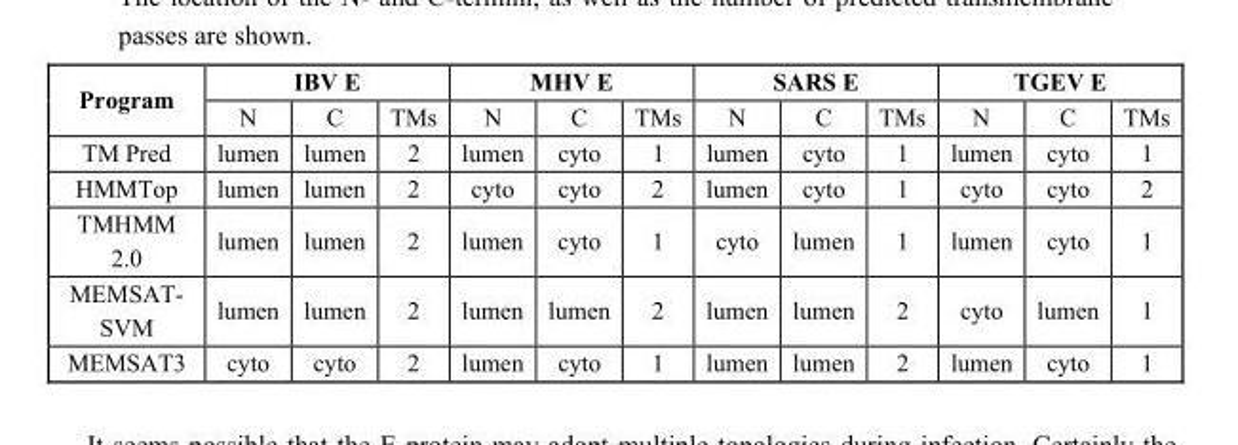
<table><thead><tr><td rowspan="2">Program</td><td colspan="3">IBV E</td><td colspan="3">MHV E</td><td colspan="3">SARS E</td><td colspan="3">TGEV E</td></tr><tr><td>N</td><td>C</td><td>TMs</td><td>N</td><td>C</td><td>TMs</td><td>N</td><td>C</td><td>TMs</td><td>N</td><td>C</td><td>TMs</td></tr></thead><tbody><tr><td>TM Pred</td><td>lumen</td><td>lumen</td><td>2</td><td>lumen</td><td>cyto</td><td>1</td><td>lumen</td><td>cyto</td><td>1</td><td>lumen</td><td>cyto</td><td>1</td></tr><tr><td>HMMTop</td><td>lumen</td><td>lumen</td><td>2</td><td>cyto</td><td>cyto</td><td>2</td><td>lumen</td><td>cyto</td><td>1</td><td>cyto</td><td>cyto</td><td>2</td></tr><tr><td>TMHMM 2.0</td><td>lumen</td><td>lumen</td><td>2</td><td>lumen</td><td>cyto</td><td>1</td><td>cyto</td><td>lumen</td><td>1</td><td>lumen</td><td>cyto</td><td>1</td></tr><tr><td>MEMSAT- SVM</td><td>lumen</td><td>lumen</td><td>2</td><td>lumen</td><td>lumen</td><td>2</td><td>lumen</td><td>lumen</td><td>2</td><td>cyto</td><td>lumen</td><td>1</td></tr><tr><td>MEMSAT3</td><td>cyto</td><td>cyto</td><td>2</td><td>lumen</td><td>cyto</td><td>1</td><td>lumen</td><td>lumen</td><td>2</td><td>lumen</td><td>cyto</td><td>1</td></tr></tbody></table>